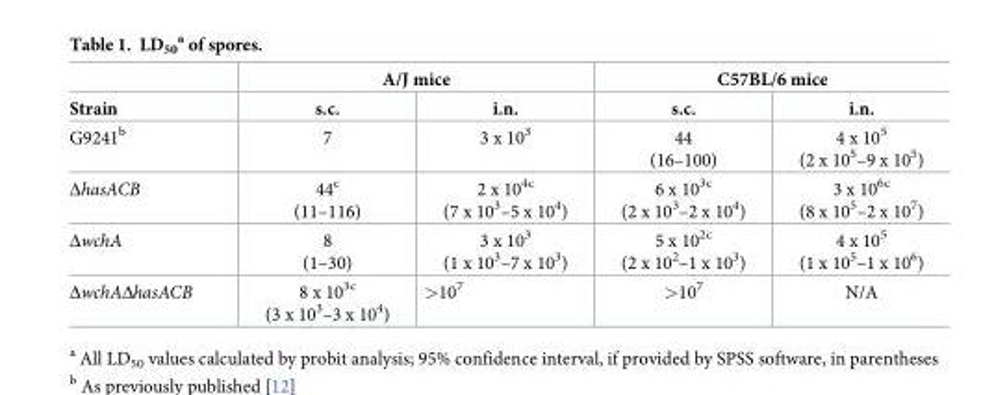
<table><thead><tr><td rowspan="2">Strain</td><td colspan="2">A/J mice</td><td colspan="2">C57BL/6 mice</td></tr><tr><td>s.c.</td><td>i.n.</td><td>s.c.</td><td>i.n.</td></tr></thead><tbody><tr><td>G9241<sup>b</sup></td><td>7</td><td>3 x 10<sup>3</sup></td><td>44 (16–100)</td><td>4 x 10<sup>5</sup> (2 x 10<sup>5</sup>–9 x 10<sup>5</sup>)</td></tr><tr><td>ΔhasACB</td><td>44<sup>c</sup> (11–116)</td><td>2 x 10<sup>4c</sup> (7 x 10<sup>3</sup>–5 x 10<sup>4</sup>)</td><td>6 x 10<sup>3c</sup> (2 x 10<sup>3</sup>–2 x 10<sup>4</sup>)</td><td>3 x 10<sup>6c</sup> (8 x 10<sup>5</sup>–2 x 10<sup>7</sup>)</td></tr><tr><td>ΔwchA</td><td>8 (1–30)</td><td>3 x 10<sup>3</sup> (1 x 10<sup>3</sup>–7 x 10<sup>3</sup>)</td><td>5 x 10<sup>2c</sup> (2 x 10<sup>2</sup>–1 x 10<sup>3</sup>)</td><td>4 x 10<sup>5</sup> (1 x 10<sup>5</sup>–1 x 10<sup>6</sup>)</td></tr><tr><td>ΔwchAΔhasACB</td><td>8 x 10<sup>3c</sup> (3 x 10<sup>3</sup>–3 x 10<sup>4</sup>)</td><td>&gt;10<sup>7</sup></td><td>&gt;10<sup>7</sup></td><td>N/A</td></tr></tbody></table>